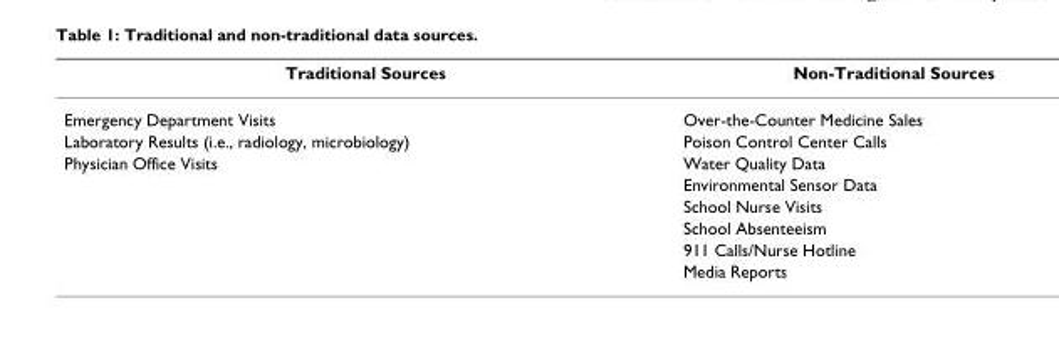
<table><thead><tr><td>Traditional Sources</td><td>Non-Traditional Sources</td></tr></thead><tbody><tr><td>Emergency Department Visits</td><td>Over-the-Counter Medicine Sales</td></tr><tr><td>Laboratory Results (i.e., radiology, microbiology)</td><td>Poison Control Center Calls</td></tr><tr><td rowspan="6">Physician Office Visits</td><td>Water Quality Data</td></tr><tr><td>Environmental Sensor Data</td></tr><tr><td>School Nurse Visits</td></tr><tr><td>School Absenteeism</td></tr><tr><td>911 Calls/Nurse Hotline</td></tr><tr><td>Media Reports</td></tr></tbody></table>